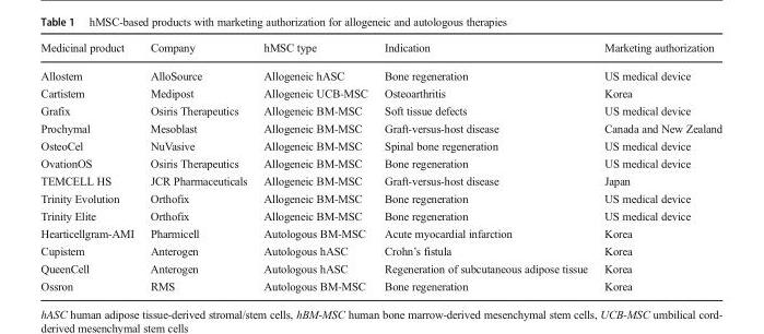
<table><thead><tr><td>Medicinal product</td><td>Company</td><td>hMSC type</td><td>Indication</td><td>Marketing authorization</td></tr></thead><tbody><tr><td>Allostem</td><td>AlloSource</td><td>Allogeneic hASC</td><td>Bone regeneration</td><td>US medical device</td></tr><tr><td>Cartistem</td><td>Medipost</td><td>Allogeneic UCB-MSC</td><td>Osteoarthritis</td><td>Korea</td></tr><tr><td>Grafix</td><td>Osiris Therapeutics</td><td>Allogeneic BM-MSC</td><td>Soft tissue defects</td><td>US medical device</td></tr><tr><td>Prochymal</td><td>Mesoblast</td><td>Allogeneic BM-MSC</td><td>Graft-versus-host disease</td><td>Canada and New Zealand</td></tr><tr><td>OsteoCel</td><td>NuVasive</td><td>Allogeneic BM-MSC</td><td>Spinal bone regeneration</td><td>US medical device</td></tr><tr><td>OvationOS</td><td>Osiris Therapeutics</td><td>Allogeneic BM-MSC</td><td>Bone regeneration</td><td>US medical device</td></tr><tr><td>TEMCELL HS</td><td>JCR Pharmaceuticals</td><td>Allogeneic BM-MSC</td><td>Graft-versus-host disease</td><td>Japan</td></tr><tr><td>Trinity Evolution</td><td>Orthofix</td><td>Allogeneic BM-MSC</td><td>Bone regeneration</td><td>US medical device</td></tr><tr><td>Trinity Elite</td><td>Orthofix</td><td>Allogeneic BM-MSC</td><td>Bone regeneration</td><td>US medical device</td></tr><tr><td>Hearticellgram-AMI</td><td>Pharmicell</td><td>Autologous BM-MSC</td><td>Acute myocardial infarction</td><td>Korea</td></tr><tr><td>Cupistem</td><td>Anterogen</td><td>Autologous hASC</td><td>Crohn’s fistula</td><td>Korea</td></tr><tr><td>QueenCell</td><td>Anterogen</td><td>Autologous hASC</td><td>Regeneration of subcutaneous adipose tissue</td><td>Korea</td></tr><tr><td>Ossron</td><td>RMS</td><td>Autologous BM-MSC</td><td>Bone regeneration</td><td>Korea</td></tr></tbody></table>